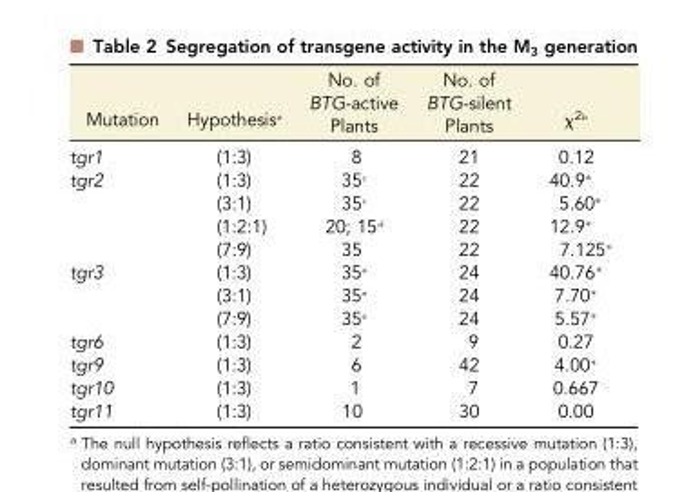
<table><thead><tr><td>Mutation</td><td>Hypothesis<sup>a</sup></td><td>No. of BTG-active Plants</td><td>No. of BTG-silent Plants</td><td>χ<sup>2b</sup></td></tr></thead><tbody><tr><td>tgr1</td><td>(1:3)</td><td>8</td><td>21</td><td>0.12</td></tr><tr><td rowspan="4">tgr2</td><td>(1:3)</td><td>35<sup>c</sup></td><td>22</td><td>40.9*</td></tr><tr><td>(3:1)</td><td>35<sup>c</sup></td><td>22</td><td>5.60*</td></tr><tr><td>(1:2:1)</td><td>20; 15<sup>d</sup></td><td>22</td><td>12.9*</td></tr><tr><td>(7:9)</td><td>35</td><td>22</td><td>7.125*</td></tr><tr><td rowspan="3">tgr3</td><td>(1:3)</td><td>35<sup>e</sup></td><td>24</td><td>40.76*</td></tr><tr><td>(3:1)</td><td>35<sup>e</sup></td><td>24</td><td>7.70*</td></tr><tr><td>(7:9)</td><td>35<sup>e</sup></td><td>24</td><td>5.57*</td></tr><tr><td>tgr6</td><td>(1:3)</td><td>2</td><td>9</td><td>0.27</td></tr><tr><td>tgr9</td><td>(1:3)</td><td>6</td><td>42</td><td>4.00*</td></tr><tr><td>tgr10</td><td>(1:3)</td><td>1</td><td>7</td><td>0.667</td></tr><tr><td>tgr11</td><td>(1:3)</td><td>10</td><td>30</td><td>0.00</td></tr></tbody></table>